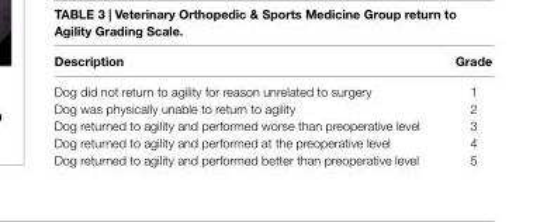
<table><thead><tr><td>Description</td><td>grade</td></tr></thead><tbody><tr><td>Dog did not return to agility for reason unrelated to surgery</td><td>1</td></tr><tr><td>Dog was physically unable to return to agility</td><td>2</td></tr><tr><td>Dog returned to agility and performed worse than preoperative level</td><td>3</td></tr><tr><td>Dog returned to agility and performed at the preoperative level</td><td>4</td></tr><tr><td>Dog returned to agility and performed better than preoperative level</td><td>5</td></tr></tbody></table>